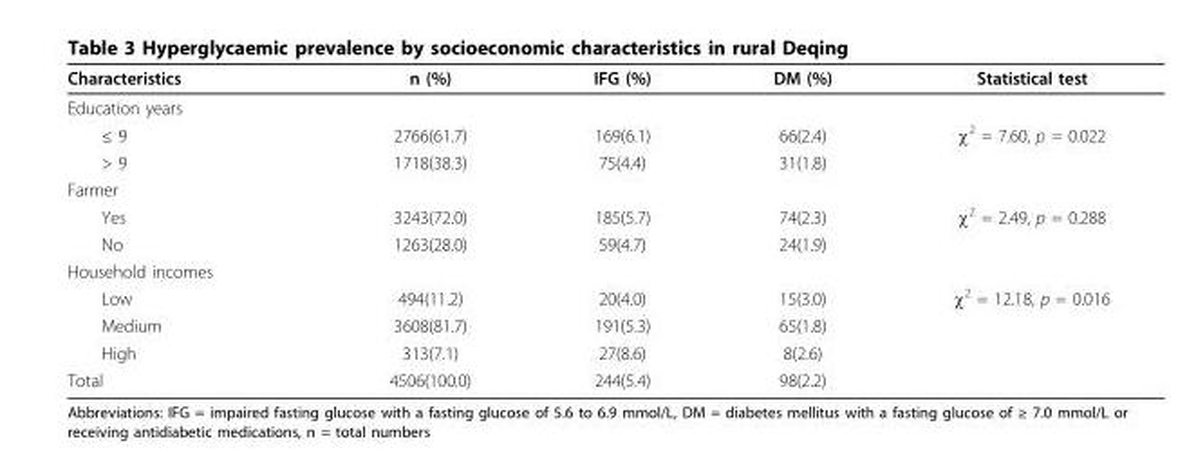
<table><thead><tr><td>Characteristics</td><td>n (%)</td><td>IFG (%)</td><td>DM (%)</td><td>Statistical test</td></tr></thead><tbody><tr><td colspan="5">Education years</td></tr><tr><td>≤ 9</td><td>2766(61.7)</td><td>169(6.1)</td><td>66(2.4)</td><td>χ<sup>2</sup> = 7.60, p = 0.022</td></tr><tr><td>&gt; 9</td><td>1718(38.3)</td><td>75(4.4)</td><td>31(1.8)</td><td></td></tr><tr><td colspan="5">Farmer</td></tr><tr><td>Yes</td><td>3243(72.0)</td><td>185(5.7)</td><td>74(2.3)</td><td>χ<sup>2</sup> = 2.49, p = 0.288</td></tr><tr><td>No</td><td>1263(28.0)</td><td>59(4.7)</td><td>24(1.9)</td><td></td></tr><tr><td colspan="5">Household incomes</td></tr><tr><td>Low</td><td>494(11.2)</td><td>20(4.0)</td><td>15(3.0)</td><td>χ<sup>2</sup> = 12.18, p = 0.016</td></tr><tr><td>Medium</td><td>3608(81.7)</td><td>191(5.3)</td><td>65(1.8)</td><td></td></tr><tr><td>High</td><td>313(7.1)</td><td>27(8.6)</td><td>8(2.6)</td><td></td></tr><tr><td>Total</td><td>4506(100.0)</td><td>244(5.4)</td><td>98(2.2)</td><td></td></tr></tbody></table>